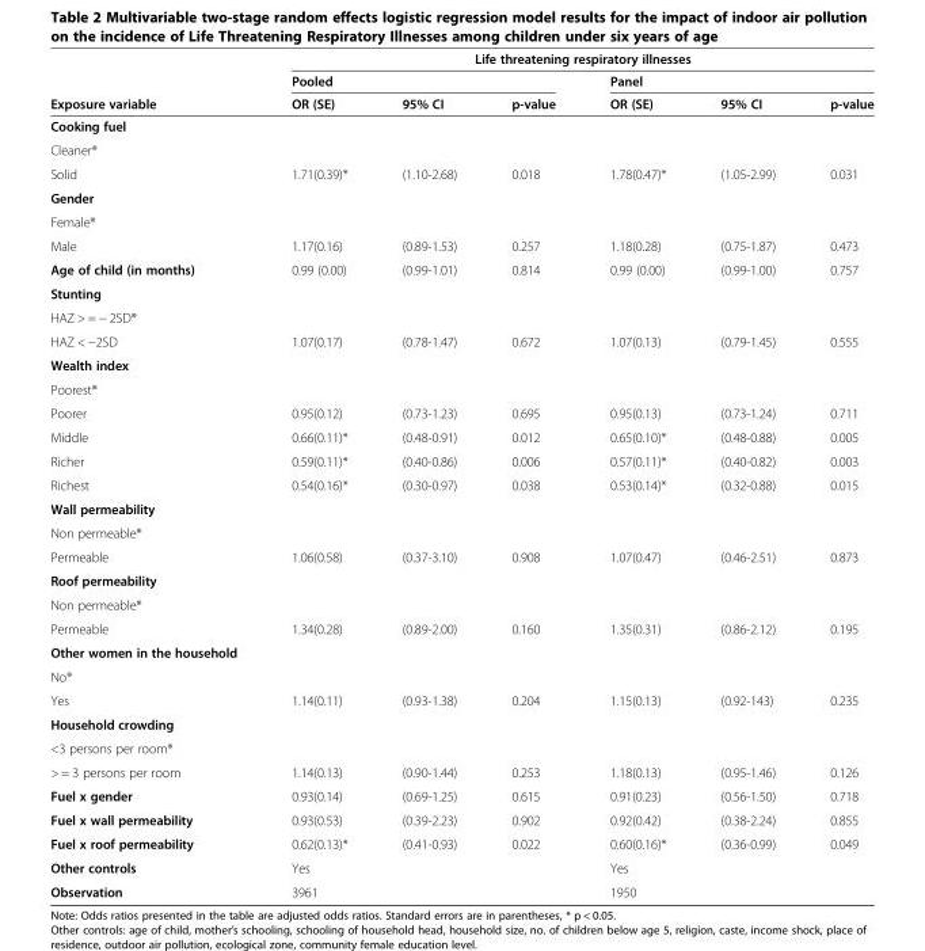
<table><thead><tr><td rowspan="3">Exposure variable</td><td colspan="6">Life threatening respiratory illnesses</td></tr><tr><td colspan="3">Pooled</td><td colspan="3">Panel</td></tr><tr><td>OR (SE)</td><td>95% CI</td><td>p-value</td><td>OR (SE)</td><td>95% CI</td><td>p-value</td></tr></thead><tbody><tr><td colspan="7">Cooking fuel</td></tr><tr><td colspan="7">Cleaner®</td></tr><tr><td>Solid</td><td>1.71(0.39)*</td><td>(1.10-2.68)</td><td>0.018</td><td>1.78(0.47)*</td><td>(1.05-2.99)</td><td>0.031</td></tr><tr><td colspan="7">Gender</td></tr><tr><td colspan="7">Female®</td></tr><tr><td>Male</td><td>1.17(0.16)</td><td>(0.89-1.53)</td><td>0.257</td><td>1.18(0.28)</td><td>(0.75-1.87)</td><td>0.473</td></tr><tr><td>Age of child (in months)</td><td>0.99 (0.00)</td><td>(0.99-1.01)</td><td>0.814</td><td>0.99 (0.00)</td><td>(0.99-1.00)</td><td>0.757</td></tr><tr><td colspan="7">Stunting</td></tr><tr><td colspan="7">HAZ &gt; = − 2SD®</td></tr><tr><td>HAZ &lt; −2SD</td><td>1.07(0.17)</td><td>(0.78-1.47)</td><td>0.672</td><td>1.07(0.13)</td><td>(0.79-1.45)</td><td>0.555</td></tr><tr><td colspan="7">Wealth index</td></tr><tr><td colspan="7">Poorest®</td></tr><tr><td>Poorer</td><td>0.95(0.12)</td><td>(0.73-1.23)</td><td>0.695</td><td>0.95(0.13)</td><td>(0.73-1.24)</td><td>0.711</td></tr><tr><td>Middle</td><td>0.66(0.11)*</td><td>(0.48-0.91)</td><td>0.012</td><td>0.65(0.10)*</td><td>(0.48-0.88)</td><td>0.005</td></tr><tr><td>Richer</td><td>0.59(0.11)*</td><td>(0.40-0.86)</td><td>0.006</td><td>0.57(0.11)*</td><td>(0.40-0.82)</td><td>0.003</td></tr><tr><td>Richest</td><td>0.54(0.16)*</td><td>(0.30-0.97)</td><td>0.038</td><td>0.53(0.14)*</td><td>(0.32-0.88)</td><td>0.015</td></tr><tr><td colspan="7">Wall permeability</td></tr><tr><td colspan="7">Non permeable®</td></tr><tr><td>Permeable</td><td>1.06(0.58)</td><td>(0.37-3.10)</td><td>0.908</td><td>1.07(0.47)</td><td>(0.46-2.51)</td><td>0.873</td></tr><tr><td colspan="7">Roof permeability</td></tr><tr><td colspan="7">Non permeable®</td></tr><tr><td>Permeable</td><td>1.34(0.28)</td><td>(0.89-2.00)</td><td>0.160</td><td>1.35(0.31)</td><td>(0.86-2.12)</td><td>0.195</td></tr><tr><td colspan="7">Other women in the household</td></tr><tr><td colspan="7">No®</td></tr><tr><td>Yes</td><td>1.14(0.11)</td><td>(0.93-1.38)</td><td>0.204</td><td>1.15(0.13)</td><td>(0.92-143)</td><td>0.235</td></tr><tr><td colspan="7">Household crowding</td></tr><tr><td colspan="7">&lt;3 persons per room®</td></tr><tr><td>&gt; = 3 persons per room</td><td>1.14(0.13)</td><td>(0.90-1.44)</td><td>0.253</td><td>1.18(0.13)</td><td>(0.95-1.46)</td><td>0.126</td></tr><tr><td>Fuel x gender</td><td>0.93(0.14)</td><td>(0.69-1.25)</td><td>0.615</td><td>0.91(0.23)</td><td>(0.56-1.50)</td><td>0.718</td></tr><tr><td>Fuel x wall permeability</td><td>0.93(0.53)</td><td>(0.39-2.23)</td><td>0.902</td><td>0.92(0.42)</td><td>(0.38-2.24)</td><td>0.855</td></tr><tr><td>Fuel x roof permeability</td><td>0.62(0.13)*</td><td>(0.41-0.93)</td><td>0.022</td><td>0.60(0.16)*</td><td>(0.36-0.99)</td><td>0.049</td></tr><tr><td>Other controls</td><td colspan="3">Yes</td><td colspan="3">Yes</td></tr><tr><td>Observation</td><td colspan="3">3961</td><td colspan="3">1950</td></tr></tbody></table>